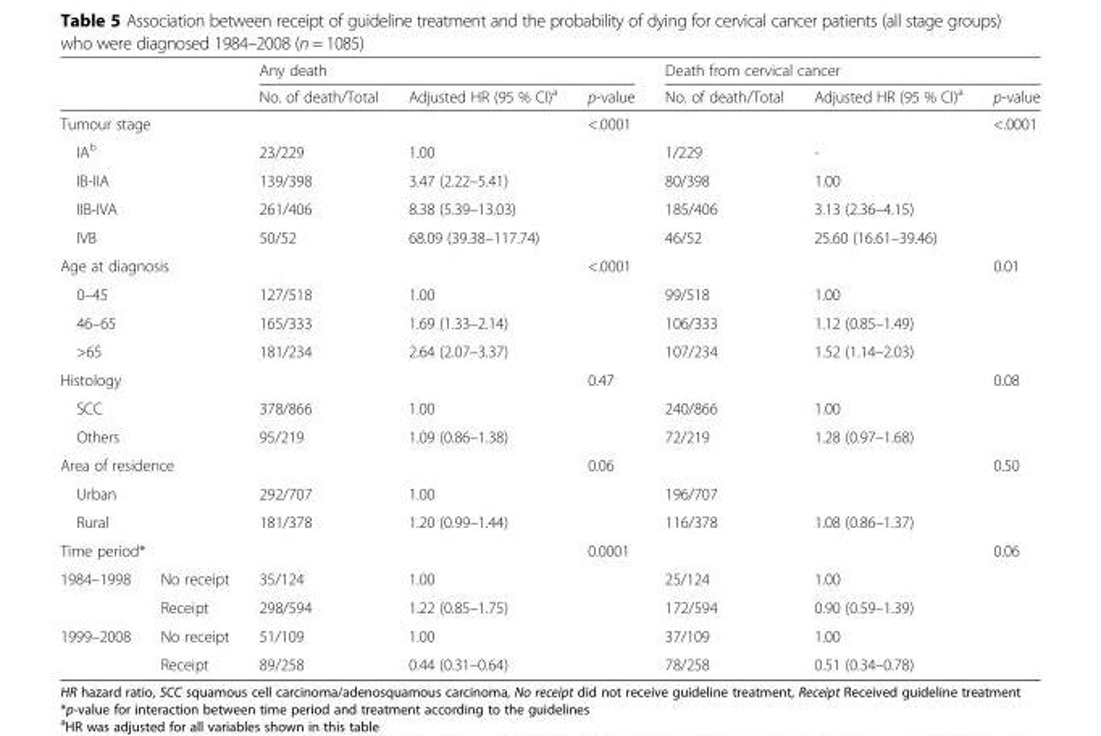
<table><thead><tr><td rowspan="2"></td><td rowspan="2"></td><td colspan="3">Any death</td><td colspan="3">Death from cervical cancer</td></tr><tr><td>No. of death/Total</td><td>Adjusted HR (95 % CI)<sup>a</sup></td><td>p-value</td><td>No. of death/Total</td><td>Adjusted HR (95 % CI)<sup>a</sup></td><td>p-value</td></tr></thead><tbody><tr><td colspan="2">Tumour stage</td><td></td><td></td><td>&lt;.0001</td><td></td><td></td><td>&lt;.0001</td></tr><tr><td colspan="2">IA<sup>b</sup></td><td>23/229</td><td>1.00</td><td></td><td>1/229</td><td>-</td><td></td></tr><tr><td colspan="2">IB-IIA</td><td>139/398</td><td>3.47 (2.22–5.41)</td><td></td><td>80/398</td><td>1.00</td><td></td></tr><tr><td colspan="2">IIB-IVA</td><td>261/406</td><td>8.38 (5.39–13.03)</td><td></td><td>185/406</td><td>3.13 (2.36–4.15)</td><td></td></tr><tr><td colspan="2">IVB</td><td>50/52</td><td>68.09 (39.38–117.74)</td><td></td><td>46/52</td><td>25.60 (16.61–39.46)</td><td></td></tr><tr><td colspan="2">Age at diagnosis</td><td></td><td></td><td>&lt;.0001</td><td></td><td></td><td>0.01</td></tr><tr><td colspan="2">0–45</td><td>127/518</td><td>1.00</td><td></td><td>99/518</td><td>1.00</td><td></td></tr><tr><td colspan="2">46–65</td><td>165/333</td><td>1.69 (1.33–2.14)</td><td></td><td>106/333</td><td>1.12 (0.85–1.49)</td><td></td></tr><tr><td colspan="2">&gt;65</td><td>181/234</td><td>2.64 (2.07–3.37)</td><td></td><td>107/234</td><td>1.52 (1.14–2.03)</td><td></td></tr><tr><td colspan="2">Histology</td><td></td><td></td><td>0.47</td><td></td><td></td><td>0.08</td></tr><tr><td colspan="2">SCC</td><td>378/866</td><td>1.00</td><td></td><td>240/866</td><td>1.00</td><td></td></tr><tr><td colspan="2">Others</td><td>95/219</td><td>1.09 (0.86–1.38)</td><td></td><td>72/219</td><td>1.28 (0.97–1.68)</td><td></td></tr><tr><td colspan="2">Area of residence</td><td></td><td></td><td>0.06</td><td></td><td></td><td>0.50</td></tr><tr><td colspan="2">Urban</td><td>292/707</td><td>1.00</td><td></td><td>196/707</td><td></td><td></td></tr><tr><td colspan="2">Rural</td><td>181/378</td><td>1.20 (0.99–1.44)</td><td></td><td>116/378</td><td>1.08 (0.86–1.37)</td><td></td></tr><tr><td colspan="2">Time period*</td><td></td><td></td><td>0.0001</td><td></td><td></td><td>0.06</td></tr><tr><td rowspan="2">1984–1998</td><td>No receipt</td><td>35/124</td><td>1.00</td><td></td><td>25/124</td><td>1.00</td><td></td></tr><tr><td>Receipt</td><td>298/594</td><td>1.22 (0.85–1.75)</td><td></td><td>172/594</td><td>0.90 (0.59–1.39)</td><td></td></tr><tr><td rowspan="2">1999–2008</td><td>No receipt</td><td>51/109</td><td>1.00</td><td></td><td>37/109</td><td>1.00</td><td></td></tr><tr><td>Receipt</td><td>89/258</td><td>0.44 (0.31–0.64)</td><td></td><td>78/258</td><td>0.51 (0.34–0.78)</td><td></td></tr></tbody></table>